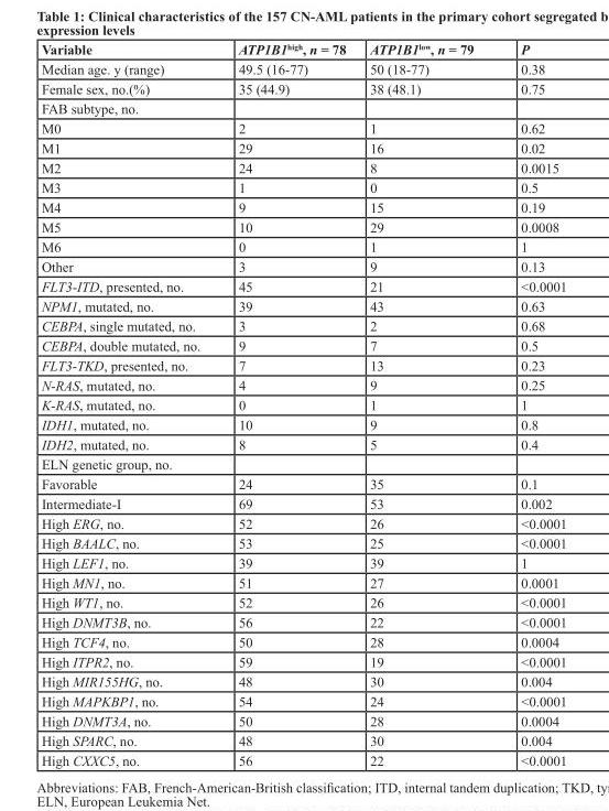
<table><thead><tr><td>Variable</td><td>ATP1B1<sup>high</sup>, n = 78</td><td>ATP1B1<sup>low</sup>, n = 79</td><td>P</td></tr></thead><tbody><tr><td>Median age. y (range)</td><td>49.5 (16‑77)</td><td>50 (18-77)</td><td>0.38</td></tr><tr><td>Female sex, no.(%)</td><td>35 (44.9)</td><td>38 (48.1)</td><td>0.75</td></tr><tr><td colspan="4">FAB subtype, no.</td></tr><tr><td>M0</td><td>2</td><td>1</td><td>0.62</td></tr><tr><td>M1</td><td>29</td><td>16</td><td>0.02</td></tr><tr><td>M2</td><td>24</td><td>8</td><td>0.0015</td></tr><tr><td>M3</td><td>1</td><td>0</td><td>0.5</td></tr><tr><td>M4</td><td>9</td><td>15</td><td>0.19</td></tr><tr><td>M5</td><td>10</td><td>29</td><td>0.0008</td></tr><tr><td>M6</td><td>0</td><td>1</td><td>1</td></tr><tr><td>Other</td><td>3</td><td>9</td><td>0.13</td></tr><tr><td>FLT3-ITD, presented, no.</td><td>45</td><td>21</td><td>&lt;0.0001</td></tr><tr><td>NPM1, mutated, no.</td><td>39</td><td>43</td><td>0.63</td></tr><tr><td>CEBPA, single mutated, no.</td><td>3</td><td>2</td><td>0.68</td></tr><tr><td>CEBPA, double mutated, no.</td><td>9</td><td>7</td><td>0.5</td></tr><tr><td>FLT3-TKD, presented, no.</td><td>7</td><td>13</td><td>0.23</td></tr><tr><td>N-RAS, mutated, no.</td><td>4</td><td>9</td><td>0.25</td></tr><tr><td>K-RAS, mutated, no.</td><td>0</td><td>1</td><td>1</td></tr><tr><td>IDH1, mutated, no.</td><td>10</td><td>9</td><td>0.8</td></tr><tr><td>IDH2, mutated, no.</td><td>8</td><td>5</td><td>0.4</td></tr><tr><td colspan="4">ELN genetic group, no.</td></tr><tr><td>Favorable</td><td>24</td><td>35</td><td>0.1</td></tr><tr><td>Intermediate‑I</td><td>69</td><td>53</td><td>0.002</td></tr><tr><td>High ERG, no.</td><td>52</td><td>26</td><td>&lt;0.0001</td></tr><tr><td>High BAALC, no.</td><td>53</td><td>25</td><td>&lt;0.0001</td></tr><tr><td>High LEF1, no.</td><td>39</td><td>39</td><td>1</td></tr><tr><td>High MN1, no.</td><td>51</td><td>27</td><td>0.0001</td></tr><tr><td>High WT1, no.</td><td>52</td><td>26</td><td>&lt;0.0001</td></tr><tr><td>High DNMT3B, no.</td><td>56</td><td>22</td><td>&lt;0.0001</td></tr><tr><td>High TCF4, no.</td><td>50</td><td>28</td><td>0.0004</td></tr><tr><td>High ITPR2, no.</td><td>59</td><td>19</td><td>&lt;0.0001</td></tr><tr><td>High MIR155HG, no.</td><td>48</td><td>30</td><td>0.004</td></tr><tr><td>High MAPKBP1, no.</td><td>54</td><td>24</td><td>&lt;0.0001</td></tr><tr><td>High DNMT3A, no.</td><td>50</td><td>28</td><td>0.0004</td></tr><tr><td>High SPARC, no.</td><td>48</td><td>30</td><td>0.004</td></tr><tr><td>High CXXC5, no.</td><td>56</td><td>22</td><td>&lt;0.0001</td></tr></tbody></table>